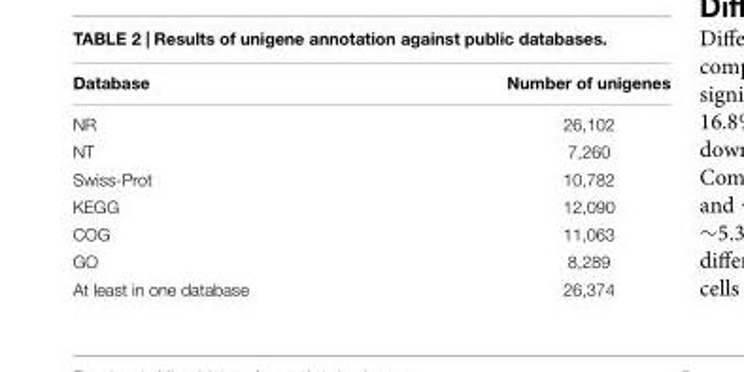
<table><thead><tr><td>Database</td><td>Number of unigenes</td></tr></thead><tbody><tr><td>NR</td><td>26,102</td></tr><tr><td>NT</td><td>7,260</td></tr><tr><td>Swiss-Prot</td><td>10,782</td></tr><tr><td>KEGG</td><td>12,090</td></tr><tr><td>COG</td><td>11,063</td></tr><tr><td>GO</td><td>8,289</td></tr><tr><td>At least in one database</td><td>26,374</td></tr></tbody></table>